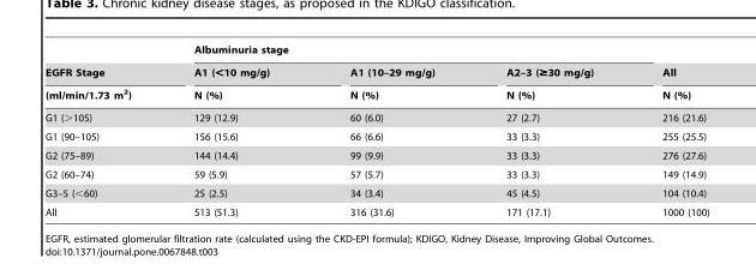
<table><thead><tr><td rowspan="3">EGFR Stage (ml/min/1.73 m<sup>2</sup>)</td><td colspan="3">Albuminuria stage</td><td rowspan="3">All N (%)</td></tr><tr><td rowspan="2">A1 (&lt;10 mg/g) N (%)</td><td rowspan="2">A1 (10–29 mg/g) N (%)</td><td rowspan="2">A2–3 (≥30 mg/g) N (%)</td></tr><tr></tr></thead><tbody><tr><td>G1 (&gt;105)</td><td>129 (12.9)</td><td>60 (6.0)</td><td>27 (2.7)</td><td>216 (21.6)</td></tr><tr><td>G1 (90–105)</td><td>156 (15.6)</td><td>66 (6.6)</td><td>33 (3.3)</td><td>255 (25.5)</td></tr><tr><td>G2 (75–89)</td><td>144 (14.4)</td><td>99 (9.9)</td><td>33 (3.3)</td><td>276 (27.6)</td></tr><tr><td>G2 (60–74)</td><td>59 (5.9)</td><td>57 (5.7)</td><td>33 (3.3)</td><td>149 (14.9)</td></tr><tr><td>G3–5 (&lt;60)</td><td>25 (2.5)</td><td>34 (3.4)</td><td>45 (4.5)</td><td>104 (10.4)</td></tr><tr><td>All</td><td>513 (51.3)</td><td>316 (31.6)</td><td>171 (17.1)</td><td>1000 (100)</td></tr></tbody></table>